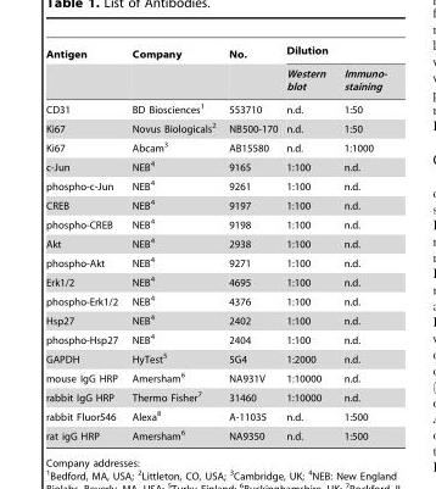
<table><thead><tr><td rowspan="2">Antigen</td><td rowspan="2">Company</td><td rowspan="2">No.</td><td colspan="2">Dilution</td></tr><tr><td>Western blot</td><td>Immuno- staining</td></tr></thead><tbody><tr><td>CD31</td><td>BD Biosciences<sup>1</sup></td><td>553710</td><td>n.d.</td><td>1:50</td></tr><tr><td>Ki67</td><td>Novus Biologicals<sup>2</sup></td><td>NB500-170</td><td>n.d.</td><td>1:50</td></tr><tr><td>Ki67</td><td>Abcam<sup>3</sup></td><td>AB15580</td><td>n.d.</td><td>1:1000</td></tr><tr><td>c-Jun</td><td>NEB<sup>4</sup></td><td>9165</td><td>1:100</td><td>n.d.</td></tr><tr><td>phospho-c-Jun</td><td>NEB<sup>4</sup></td><td>9261</td><td>1:100</td><td>n.d.</td></tr><tr><td>CREB</td><td>NEB<sup>4</sup></td><td>9197</td><td>1:100</td><td>n.d.</td></tr><tr><td>phospho-CREB</td><td>NEB<sup>4</sup></td><td>9198</td><td>1:100</td><td>n.d.</td></tr><tr><td>Akt</td><td>NEB<sup>4</sup></td><td>2938</td><td>1:100</td><td>n.d.</td></tr><tr><td>phospho-Akt</td><td>NEB<sup>4</sup></td><td>9271</td><td>1:100</td><td>n.d.</td></tr><tr><td>Erk1/2</td><td>NEB<sup>4</sup></td><td>4695</td><td>1:100</td><td>n.d.</td></tr><tr><td>phospho-Erk1/2</td><td>NEB<sup>4</sup></td><td>4376</td><td>1:100</td><td>n.d.</td></tr><tr><td>Hsp27</td><td>NEB<sup>4</sup></td><td>2402</td><td>1:100</td><td>n.d.</td></tr><tr><td>phospho-Hsp27</td><td>NEB<sup>4</sup></td><td>2404</td><td>1:100</td><td>n.d.</td></tr><tr><td>GAPDH</td><td>HyTest<sup>5</sup></td><td>5G4</td><td>1:2000</td><td>n.d.</td></tr><tr><td>mouse IgG HRP</td><td>Amersham<sup>6</sup></td><td>NA931V</td><td>1:10000</td><td>n.d.</td></tr><tr><td>rabbit IgG HRP</td><td>Thermo Fisher<sup>7</sup></td><td>31460</td><td>1:10000</td><td>n.d.</td></tr><tr><td>rabbit Fluor546</td><td>Alexa<sup>8</sup></td><td>A-11035</td><td>n.d.</td><td>1:500</td></tr><tr><td>rat igG HRP</td><td>Amersham<sup>6</sup></td><td>NA9350</td><td>n.d.</td><td>1:500</td></tr></tbody></table>